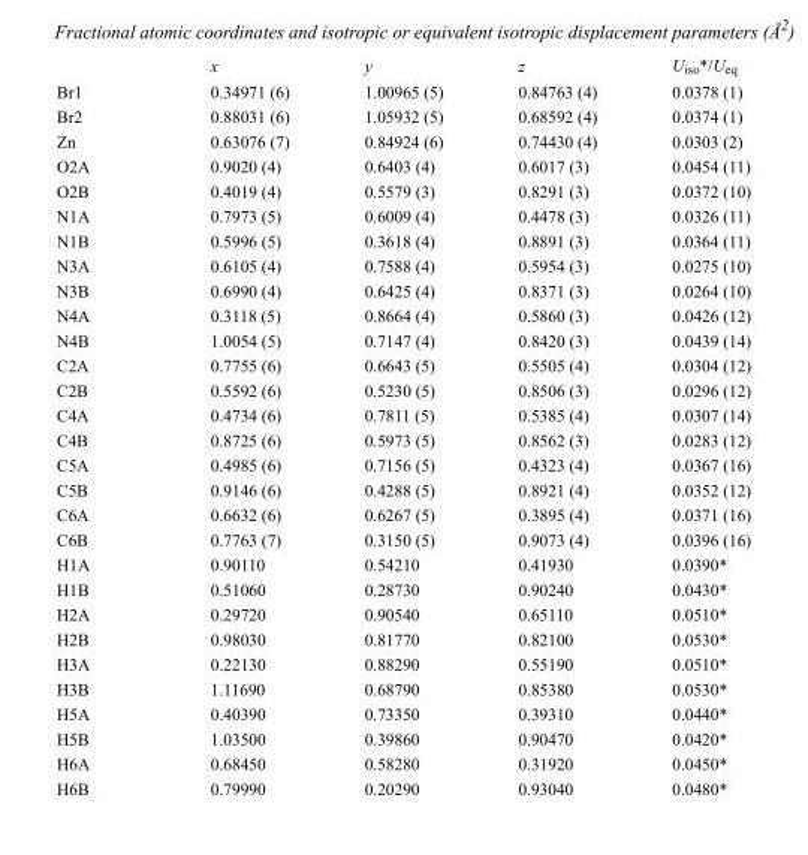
<table><thead><tr><td></td><td>x</td><td>y</td><td>z</td><td>U<sub>iso</sub>*/U<sub>eq</sub></td></tr></thead><tbody><tr><td>Br1</td><td>0.34971 (6)</td><td>1.00965 (5)</td><td>0.84763 (4)</td><td>0.0378 (1)</td></tr><tr><td>Br2</td><td>0.88031 (6)</td><td>1.05932 (5)</td><td>0.68592 (4)</td><td>0.0374 (1)</td></tr><tr><td>Zn</td><td>0.63076 (7)</td><td>0.84924 (6)</td><td>0.74430 (4)</td><td>0.0303 (2)</td></tr><tr><td>O2A</td><td>0.9020 (4)</td><td>0.6403 (4)</td><td>0.6017 (3)</td><td>0.0454 (11)</td></tr><tr><td>O2B</td><td>0.4019 (4)</td><td>0.5579 (3)</td><td>0.8291 (3)</td><td>0.0372 (10)</td></tr><tr><td>N1A</td><td>0.7973 (5)</td><td>0.6009 (4)</td><td>0.4478 (3)</td><td>0.0326 (11)</td></tr><tr><td>N1B</td><td>0.5996 (5)</td><td>0.3618 (4)</td><td>0.8891 (3)</td><td>0.0364 (11)</td></tr><tr><td>N3A</td><td>0.6105 (4)</td><td>0.7588 (4)</td><td>0.5954 (3)</td><td>0.0275 (10)</td></tr><tr><td>N3B</td><td>0.6990 (4)</td><td>0.6425 (4)</td><td>0.8371 (3)</td><td>0.0264 (10)</td></tr><tr><td>N4A</td><td>0.3118 (5)</td><td>0.8664 (4)</td><td>0.5860 (3)</td><td>0.0426 (12)</td></tr><tr><td>N4B</td><td>1.0054 (5)</td><td>0.7147 (4)</td><td>0.8420 (3)</td><td>0.0439 (14)</td></tr><tr><td>C2A</td><td>0.7755 (6)</td><td>0.6643 (5)</td><td>0.5505 (4)</td><td>0.0304 (12)</td></tr><tr><td>C2B</td><td>0.5592 (6)</td><td>0.5230 (5)</td><td>0.8506 (3)</td><td>0.0296 (12)</td></tr><tr><td>C4A</td><td>0.4734 (6)</td><td>0.7811 (5)</td><td>0.5385 (4)</td><td>0.0307 (14)</td></tr><tr><td>C4B</td><td>0.8725 (6)</td><td>0.5973 (5)</td><td>0.8562 (3)</td><td>0.0283 (12)</td></tr><tr><td>C5A</td><td>0.4985 (6)</td><td>0.7156 (5)</td><td>0.4323 (4)</td><td>0.0367 (16)</td></tr><tr><td>C5B</td><td>0.9146 (6)</td><td>0.4288 (5)</td><td>0.8921 (4)</td><td>0.0352 (12)</td></tr><tr><td>C6A</td><td>0.6632 (6)</td><td>0.6267 (5)</td><td>0.3895 (4)</td><td>0.0371 (16)</td></tr><tr><td>C6B</td><td>0.7763 (7)</td><td>0.3150 (5)</td><td>0.9073 (4)</td><td>0.0396 (16)</td></tr><tr><td>H1A</td><td>0.90110</td><td>0.54210</td><td>0.41930</td><td>0.0390*</td></tr><tr><td>H1B</td><td>0.51060</td><td>0.28730</td><td>0.90240</td><td>0.0430*</td></tr><tr><td>H2A</td><td>0.29720</td><td>0.90540</td><td>0.65110</td><td>0.0510*</td></tr><tr><td>H2B</td><td>0.98030</td><td>0.81770</td><td>0.82100</td><td>0.0530*</td></tr><tr><td>H3A</td><td>0.22130</td><td>0.88290</td><td>0.55190</td><td>0.0510*</td></tr><tr><td>H3B</td><td>1.11690</td><td>0.68790</td><td>0.85380</td><td>0.0530*</td></tr><tr><td>H5A</td><td>0.40390</td><td>0.73350</td><td>0.39310</td><td>0.0440*</td></tr><tr><td>H5B</td><td>1.03500</td><td>0.39860</td><td>0.90470</td><td>0.0420*</td></tr><tr><td>H6A</td><td>0.68450</td><td>0.58280</td><td>0.31920</td><td>0.0450*</td></tr><tr><td>H6B</td><td>0.79990</td><td>0.20290</td><td>0.93040</td><td>0.0480*</td></tr></tbody></table>